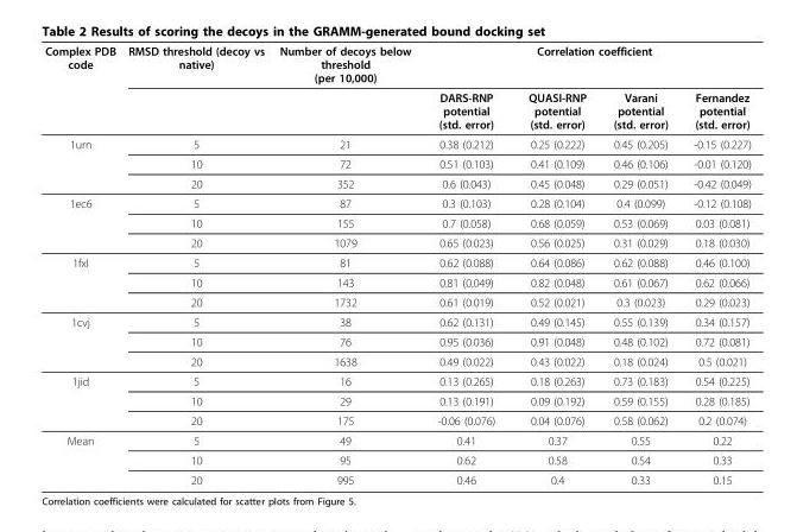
<table><thead><tr><td rowspan="2">Complex PDB code</td><td rowspan="2">RMSD threshold (decoy vs native)</td><td rowspan="2">Number of decoys below threshold (per 10,000)</td><td colspan="4">Correlation coefficient</td></tr><tr><td>DARS-RNP potential (std. error)</td><td>QUASI-RNP potential (std. error)</td><td>Varani potential (std. error)</td><td>Fernandez potential (std. error)</td></tr></thead><tbody><tr><td rowspan="3">1urn</td><td>5</td><td>21</td><td>0.38 (0.212)</td><td>0.25 (0.222)</td><td>0.45 (0.205)</td><td>-0.15 (0.227)</td></tr><tr><td>10</td><td>72</td><td>0.51 (0.103)</td><td>0.41 (0.109)</td><td>0.46 (0.106)</td><td>-0.01 (0.120)</td></tr><tr><td>20</td><td>352</td><td>0.6 (0.043)</td><td>0.45 (0.048)</td><td>0.29 (0.051)</td><td>-0.42 (0.049)</td></tr><tr><td rowspan="3">1ec6</td><td>5</td><td>87</td><td>0.3 (0.103)</td><td>0.28 (0.104)</td><td>0.4 (0.099)</td><td>-0.12 (0.108)</td></tr><tr><td>10</td><td>155</td><td>0.7 (0.058)</td><td>0.68 (0.059)</td><td>0.53 (0.069)</td><td>0.03 (0.081)</td></tr><tr><td>20</td><td>1079</td><td>0.65 (0.023)</td><td>0.56 (0.025)</td><td>0.31 (0.029)</td><td>0.18 (0.030)</td></tr><tr><td rowspan="3">1fxl</td><td>5</td><td>81</td><td>0.62 (0.088)</td><td>0.64 (0.086)</td><td>0.62 (0.088)</td><td>0.46 (0.100)</td></tr><tr><td>10</td><td>143</td><td>0.81 (0.049)</td><td>0.82 (0.048)</td><td>0.61 (0.067)</td><td>0.62 (0.066)</td></tr><tr><td>20</td><td>1732</td><td>0.61 (0.019)</td><td>0.52 (0.021)</td><td>0.3 (0.023)</td><td>0.29 (0.023)</td></tr><tr><td rowspan="3">1cvj</td><td>5</td><td>38</td><td>0.62 (0.131)</td><td>0.49 (0.145)</td><td>0.55 (0.139)</td><td>0.34 (0.157)</td></tr><tr><td>10</td><td>76</td><td>0.95 (0.036)</td><td>0.91 (0.048)</td><td>0.48 (0.102)</td><td>0.72 (0.081)</td></tr><tr><td>20</td><td>1638</td><td>0.49 (0.022)</td><td>0.43 (0.022)</td><td>0.18 (0.024)</td><td>0.5 (0.021)</td></tr><tr><td rowspan="3">1jid</td><td>5</td><td>16</td><td>0.13 (0.265)</td><td>0.18 (0.263)</td><td>0.73 (0.183)</td><td>0.54 (0.225)</td></tr><tr><td>10</td><td>29</td><td>0.13 (0.191)</td><td>0.09 (0.192)</td><td>0.59 (0.155)</td><td>0.28 (0.185)</td></tr><tr><td>20</td><td>175</td><td>-0.06 (0.076)</td><td>0.04 (0.076)</td><td>0.58 (0.062)</td><td>0.2 (0.074)</td></tr><tr><td rowspan="3">Mean</td><td>5</td><td>49</td><td>0.41</td><td>0.37</td><td>0.55</td><td>0.22</td></tr><tr><td>10</td><td>95</td><td>0.62</td><td>0.58</td><td>0.54</td><td>0.33</td></tr><tr><td>20</td><td>995</td><td>0.46</td><td>0.4</td><td>0.33</td><td>0.15</td></tr></tbody></table>